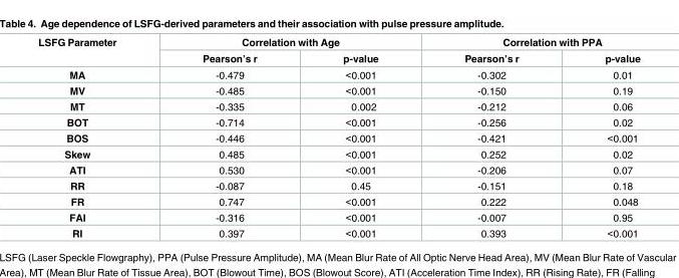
<table><thead><tr><td rowspan="2">LSFG Parameter</td><td colspan="2">Correlation with Age</td><td colspan="2">Correlation with PPA</td></tr><tr><td>Pearson’s r</td><td>p-value</td><td>Pearson’s r</td><td>p-value</td></tr></thead><tbody><tr><td>MA</td><td>-0.479</td><td>&lt;0.001</td><td>-0.302</td><td>0.01</td></tr><tr><td>MV</td><td>-0.485</td><td>&lt;0.001</td><td>-0.150</td><td>0.19</td></tr><tr><td>MT</td><td>-0.335</td><td>0.002</td><td>-0.212</td><td>0.06</td></tr><tr><td>BOT</td><td>-0.714</td><td>&lt;0.001</td><td>-0.256</td><td>0.02</td></tr><tr><td>BOS</td><td>-0.446</td><td>&lt;0.001</td><td>-0.421</td><td>&lt;0.001</td></tr><tr><td>Skew</td><td>0.485</td><td>&lt;0.001</td><td>0.252</td><td>0.02</td></tr><tr><td>ATI</td><td>0.530</td><td>&lt;0.001</td><td>-0.206</td><td>0.07</td></tr><tr><td>RR</td><td>-0.087</td><td>0.45</td><td>-0.151</td><td>0.18</td></tr><tr><td>FR</td><td>0.747</td><td>&lt;0.001</td><td>0.222</td><td>0.048</td></tr><tr><td>FAI</td><td>-0.316</td><td>&lt;0.001</td><td>-0.007</td><td>0.95</td></tr><tr><td>RI</td><td>0.397</td><td>&lt;0.001</td><td>0.393</td><td>&lt;0.001</td></tr></tbody></table>